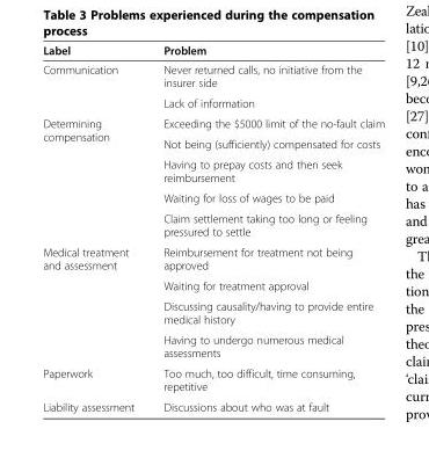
<table><thead><tr><td>Label</td><td>Problem</td></tr></thead><tbody><tr><td rowspan="2">Communication</td><td>Never returned calls, no initiative from the insurer side</td></tr><tr><td>Lack of information</td></tr><tr><td rowspan="5">Determining compensation</td><td>Exceeding the $5000 limit of the no-fault claim</td></tr><tr><td>Not being (sufficiently) compensated for costs</td></tr><tr><td>Having to prepay costs and then seek reimbursement</td></tr><tr><td>Waiting for loss of wages to be paid</td></tr><tr><td>Claim settlement taking too long or feeling pressured to settle</td></tr><tr><td rowspan="4">Medical treatment and assessment</td><td>Reimbursement for treatment not being approved</td></tr><tr><td>Waiting for treatment approval</td></tr><tr><td>Discussing causality/having to provide entire medical history</td></tr><tr><td>Having to undergo numerous medical assessments</td></tr><tr><td>Paperwork</td><td>Too much, too difficult, time consuming, repetitive</td></tr><tr><td>Liability assessment</td><td>Discussions about who was at fault</td></tr></tbody></table>